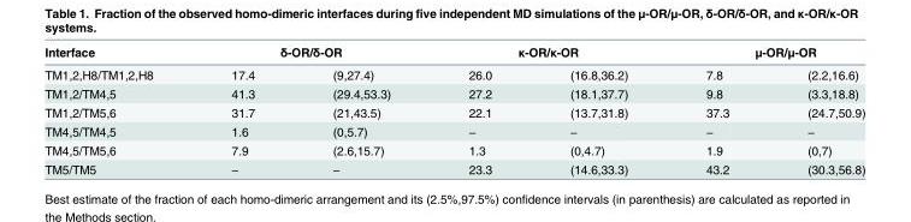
<table><thead><tr><td rowspan="2">Interface TM1,2,H8/TM1,2,H8</td><td colspan="2">δ-OR/δ-OR</td><td colspan="2">κ-OR/κ-OR</td><td colspan="2">μ-OR/μ-OR</td></tr><tr><td>17.4</td><td>(9,27.4)</td><td>26.0</td><td>(16.8,36.2)</td><td>7.8</td><td>(2.2,16.6)</td></tr></thead><tbody><tr><td>TM1,2/TM4,5</td><td>41.3</td><td>(29.4,53.3)</td><td>27.2</td><td>(18.1,37.7)</td><td>9.8</td><td>(3.3,18.8)</td></tr><tr><td>TM1,2/TM5,6</td><td>31.7</td><td>(21,43.5)</td><td>22.1</td><td>(13.7,31.8)</td><td>37.3</td><td>(24.7,50.9)</td></tr><tr><td>TM4,5/TM4,5</td><td>1.6</td><td>(0,5.7)</td><td>―</td><td>―</td><td>―</td><td>―</td></tr><tr><td>TM4,5/TM5,6</td><td>7.9</td><td>(2.6,15.7)</td><td>1.3</td><td>(0,4.7)</td><td>1.9</td><td>(0,7)</td></tr><tr><td>TM5/TM5</td><td>―</td><td>―</td><td>23.3</td><td>(14.6,33.3)</td><td>43.2</td><td>(30.3,56.8)</td></tr></tbody></table>